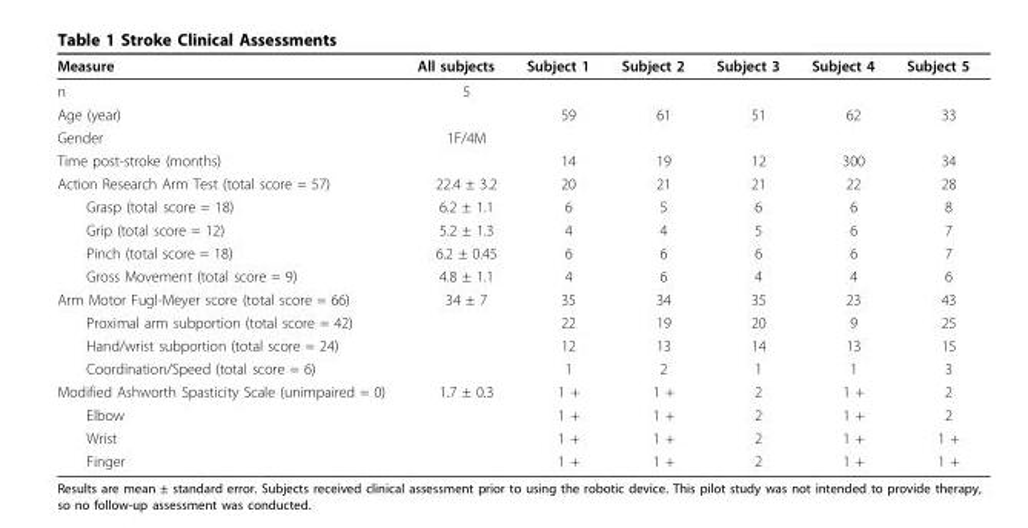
<table><thead><tr><td>Measure</td><td>All subjects</td><td>Subject 1</td><td>Subject 2</td><td>Subject 3</td><td>Subject 4</td><td>Subject 5</td></tr></thead><tbody><tr><td>n</td><td>5</td><td></td><td></td><td></td><td></td><td></td></tr><tr><td>Age (year)</td><td></td><td>59</td><td>61</td><td>51</td><td>62</td><td>33</td></tr><tr><td>Gender</td><td>1F/4M</td><td></td><td></td><td></td><td></td><td></td></tr><tr><td>Time post-stroke (months)</td><td></td><td>14</td><td>19</td><td>12</td><td>300</td><td>34</td></tr><tr><td>Action Research Arm Test (total score = 57)</td><td>22.4 ± 3.2</td><td>20</td><td>21</td><td>21</td><td>22</td><td>28</td></tr><tr><td>Grasp (total score = 18)</td><td>6.2 ± 1.1</td><td>6</td><td>5</td><td>6</td><td>6</td><td>8</td></tr><tr><td>Grip (total score = 12)</td><td>5.2 ± 1.3</td><td>4</td><td>4</td><td>5</td><td>6</td><td>7</td></tr><tr><td>Pinch (total score = 18)</td><td>6.2 ± 0.45</td><td>6</td><td>6</td><td>6</td><td>6</td><td>7</td></tr><tr><td>Gross Movement (total score = 9)</td><td>4.8 ± 1.1</td><td>4</td><td>6</td><td>4</td><td>4</td><td>6</td></tr><tr><td>Arm Motor Fugl-Meyer score (total score = 66)</td><td>34 ± 7</td><td>35</td><td>34</td><td>35</td><td>23</td><td>43</td></tr><tr><td>Proximal arm subportion (total score = 42)</td><td></td><td>22</td><td>19</td><td>20</td><td>9</td><td>25</td></tr><tr><td>Hand/wrist subportion (total score = 24)</td><td></td><td>12</td><td>13</td><td>14</td><td>13</td><td>15</td></tr><tr><td>Coordination/Speed (total score = 6)</td><td></td><td>1</td><td>2</td><td>1</td><td>1</td><td>3</td></tr><tr><td>Modified Ashworth Spasticity Scale (unimpaired = 0)</td><td>1.7 ± 0.3</td><td>1 +</td><td>1 +</td><td>2</td><td>1 +</td><td>2</td></tr><tr><td>Elbow</td><td></td><td>1 +</td><td>1 +</td><td>2</td><td>1 +</td><td>2</td></tr><tr><td>Wrist</td><td></td><td>1 +</td><td>1 +</td><td>2</td><td>1 +</td><td>1 +</td></tr><tr><td>Finger</td><td></td><td>1 +</td><td>1 +</td><td>2</td><td>1 +</td><td>1 +</td></tr></tbody></table>